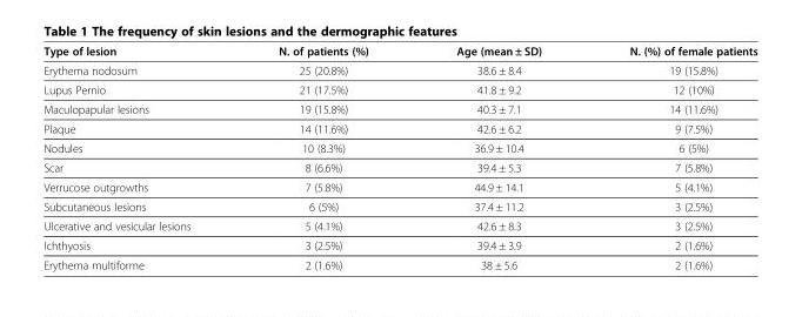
<table><thead><tr><td>Type of lesion</td><td>N. of patients (%)</td><td>Age (mean ± SD)</td><td>N. (%) of female patients</td></tr></thead><tbody><tr><td>Erythema nodosum</td><td>25 (20.8%)</td><td>38.6 ± 8.4</td><td>19 (15.8%)</td></tr><tr><td>Lupus Pernio</td><td>21 (17.5%)</td><td>41.8 ± 9.2</td><td>12 (10%)</td></tr><tr><td>Maculopapular lesions</td><td>19 (15.8%)</td><td>40.3 ± 7.1</td><td>14 (11.6%)</td></tr><tr><td>Plaque</td><td>14 (11.6%)</td><td>42.6 ± 6.2</td><td>9 (7.5%)</td></tr><tr><td>Nodules</td><td>10 (8.3%)</td><td>36.9 ± 10.4</td><td>6 (5%)</td></tr><tr><td>Scar</td><td>8 (6.6%)</td><td>39.4 ± 5.3</td><td>7 (5.8%)</td></tr><tr><td>Verrucose outgrowths</td><td>7 (5.8%)</td><td>44.9 ± 14.1</td><td>5 (4.1%)</td></tr><tr><td>Subcutaneous lesions</td><td>6 (5%)</td><td>37.4 ± 11.2</td><td>3 (2.5%)</td></tr><tr><td>Ulcerative and vesicular lesions</td><td>5 (4.1%)</td><td>42.6 ± 8.3</td><td>3 (2.5%)</td></tr><tr><td>Ichthyosis</td><td>3 (2.5%)</td><td>39.4 ± 3.9</td><td>2 (1.6%)</td></tr><tr><td>Erythema multiforme</td><td>2 (1.6%)</td><td>38 ± 5.6</td><td>2 (1.6%)</td></tr></tbody></table>